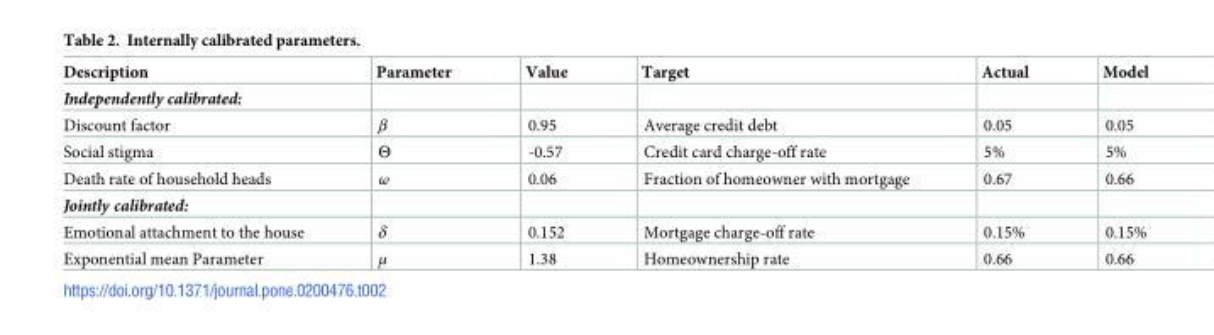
<table><thead><tr><td>Description</td><td>Parameter</td><td>Value</td><td>Target</td><td>Actual</td><td>Model</td></tr></thead><tbody><tr><td colspan="6">Independently calibrated:</td></tr><tr><td>Discount factor</td><td>β</td><td>0.95</td><td>Average credit debt</td><td>0.05</td><td>0.05</td></tr><tr><td>Social stigma</td><td>Θ</td><td>-0.57</td><td>Credit card charge-off rate</td><td>5%</td><td>5%</td></tr><tr><td>Death rate of household heads</td><td>ω</td><td>0.06</td><td>Fraction of homeowner with mortgage</td><td>0.67</td><td>0.66</td></tr><tr><td colspan="6">Jointly calibrated:</td></tr><tr><td>Emotional attachment to the house</td><td>δ</td><td>0.152</td><td>Mortgage charge-off rate</td><td>0.15%</td><td>0.15%</td></tr><tr><td>Exponential mean Parameter</td><td>μ</td><td>1.38</td><td>Homeownership rate</td><td>0.66</td><td>0.66</td></tr></tbody></table>